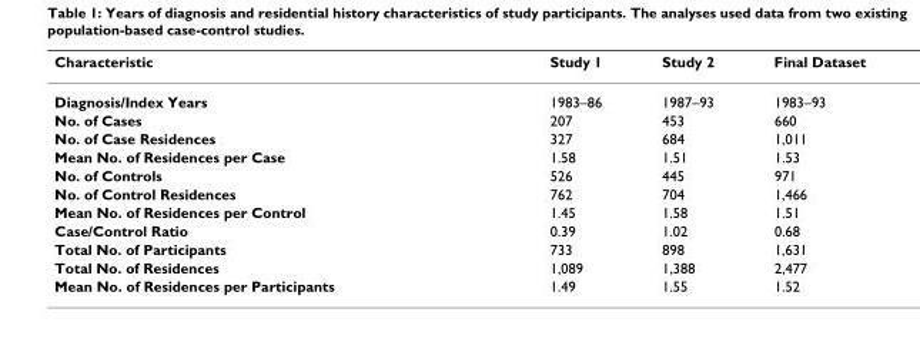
<table><thead><tr><td>Characteristic</td><td>Study 1</td><td>Study 2</td><td>Final Dataset</td></tr></thead><tbody><tr><td>Diagnosis/Index Years</td><td>1983–86</td><td>1987–93</td><td>1983–93</td></tr><tr><td>No. of Cases</td><td>207</td><td>453</td><td>660</td></tr><tr><td>No. of Case Residences</td><td>327</td><td>684</td><td>1,011</td></tr><tr><td>Mean No. of Residences per Case</td><td>1.58</td><td>1.51</td><td>1.53</td></tr><tr><td>No. of Controls</td><td>526</td><td>445</td><td>971</td></tr><tr><td>No. of Control Residences</td><td>762</td><td>704</td><td>1,466</td></tr><tr><td>Mean No. of Residences per Control</td><td>1.45</td><td>1.58</td><td>1.51</td></tr><tr><td>Case/Control Ratio</td><td>0.39</td><td>1.02</td><td>0.68</td></tr><tr><td>Total No. of Participants</td><td>733</td><td>898</td><td>1,631</td></tr><tr><td>Total No. of Residences</td><td>1,089</td><td>1,388</td><td>2,477</td></tr><tr><td>Mean No. of Residences per Participants</td><td>1.49</td><td>1.55</td><td>1.52</td></tr></tbody></table>